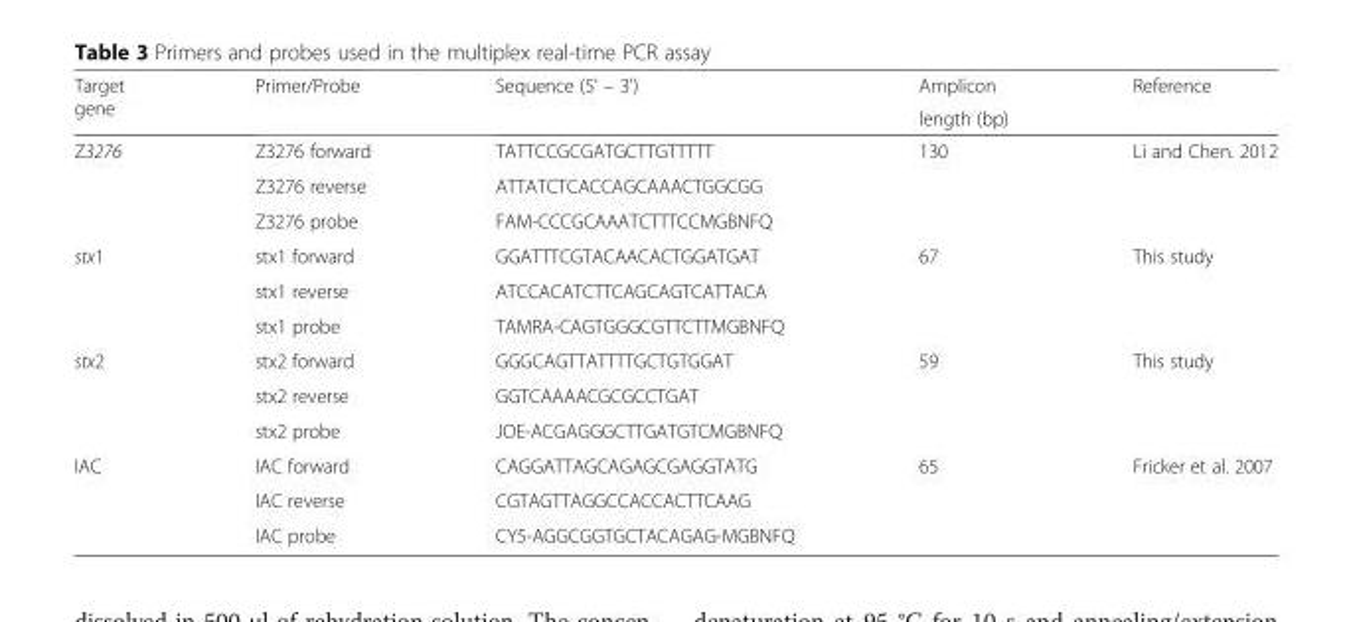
<table><thead><tr><td rowspan="2">Target gene</td><td rowspan="2">Primer/Probe</td><td rowspan="2">Sequence (5&#x27; – 3&#x27;)</td><td rowspan="2">Amplicon length (bp)</td><td rowspan="2">Reference</td></tr><tr></tr></thead><tbody><tr><td rowspan="3">Z3276</td><td>Z3276 forward</td><td>TATTCCGCGATGCTTGTTTTT</td><td rowspan="3">130</td><td rowspan="3">Li and Chen. 2012</td></tr><tr><td>Z3276 reverse</td><td>ATTATCTCACCAGCAAACTGGCGG</td></tr><tr><td>Z3276 probe</td><td>FAM-CCCGCAAATCTTTCCMGBNFQ</td></tr><tr><td rowspan="3">stx1</td><td>stx1 forward</td><td>GGATTTCGTACAACACTGGATGAT</td><td rowspan="3">67</td><td rowspan="3">This study</td></tr><tr><td>stx1 reverse</td><td>ATCCACATCTTCAGCAGTCATTACA</td></tr><tr><td>stx1 probe</td><td>TAMRA-CAGTGGGCGTTCTTMGBNFQ</td></tr><tr><td rowspan="3">stx2</td><td>stx2 forward</td><td>GGGCAGTTATTTTGCTGTGGAT</td><td rowspan="3">59</td><td rowspan="3">This study</td></tr><tr><td>stx2 reverse</td><td>GGTCAAAACGCGCCTGAT</td></tr><tr><td>stx2 probe</td><td>JOE-ACGAGGGCTTGATGTCMGBNFQ</td></tr><tr><td rowspan="3">IAC</td><td>IAC forward</td><td>CAGGATTAGCAGAGCGAGGTATG</td><td rowspan="3">65</td><td rowspan="3">Fricker et al. 2007</td></tr><tr><td>IAC reverse</td><td>CGTAGTTAGGCCACCACTTCAAG</td></tr><tr><td>IAC probe</td><td>CY5-AGGCGGTGCTACAGAG-MGBNFQ</td></tr></tbody></table>